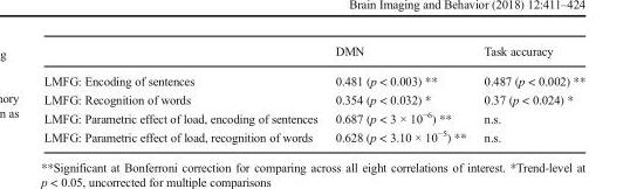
<table><thead><tr><td></td><td>DMN</td><td>Task accuracy</td></tr></thead><tbody><tr><td>LMFG: Encoding of sentences</td><td>0.481 (p &lt; 0.003) **</td><td>0.487 (p &lt; 0.002) **</td></tr><tr><td>LMFG: Recognition of words</td><td>0.354 (p &lt; 0.032) *</td><td>0.37 (p &lt; 0.024) *</td></tr><tr><td>LMFG: Parametric effect of load, encoding of sentences</td><td>0.687 (p &lt; 3 × 10<sup>−6</sup>) **</td><td>n.s.</td></tr><tr><td>LMFG: Parametric effect of load, recognition of words</td><td>0.628 (p &lt; 3.10 × 10<sup>−5</sup>) **</td><td>n.s.</td></tr></tbody></table>